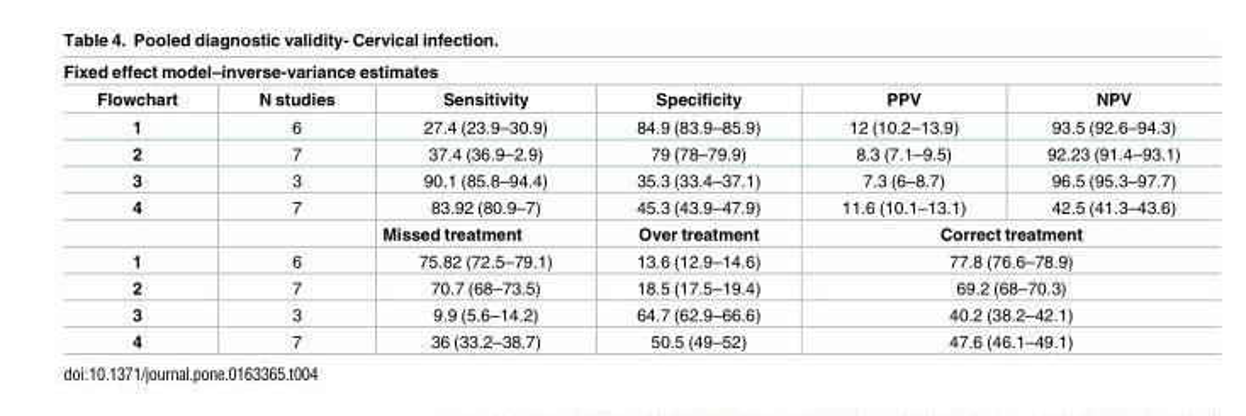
<table><thead><tr><td colspan="6">Fixed effect model–inverse-variance estimates</td></tr><tr><td>Flowchart</td><td>N studies</td><td>Sensitivity</td><td>Specificity</td><td>PPV</td><td>NPV</td></tr></thead><tbody><tr><td>1</td><td>6</td><td>27.4 (23.9–30.9)</td><td>84.9 (83.9–85.9)</td><td>12 (10.2–13.9)</td><td>93.5 (92.6–94.3)</td></tr><tr><td>2</td><td>7</td><td>37.4 (36.9–2.9)</td><td>79 (78–79.9)</td><td>8.3 (7.1–9.5)</td><td>92.23 (91.4–93.1)</td></tr><tr><td>3</td><td>3</td><td>90.1 (85.8–94.4)</td><td>35.3 (33.4–37.1)</td><td>7.3 (6–8.7)</td><td>96.5 (95.3–97.7)</td></tr><tr><td rowspan="2">4</td><td>7</td><td>83.92 (80.9–7)</td><td>45.3 (43.9–47.9)</td><td>11.6 (10.1–13.1)</td><td>42.5 (41.3–43.6)</td></tr><tr><td></td><td>Missed treatment</td><td>Over treatment</td><td colspan="2">Correct treatment</td></tr><tr><td>1</td><td>6</td><td>75.82 (72.5–79.1)</td><td>13.6 (12.9–14.6)</td><td colspan="2">77.8 (76.6–78.9)</td></tr><tr><td>2</td><td>7</td><td>70.7 (68–73.5)</td><td>18.5 (17.5–19.4)</td><td colspan="2">69.2 (68–70.3)</td></tr><tr><td>3</td><td>3</td><td>9.9 (5.6–14.2)</td><td>64.7 (62.9–66.6)</td><td colspan="2">40.2 (38.2–42.1)</td></tr><tr><td>4</td><td>7</td><td>36 (33.2–38.7)</td><td>50.5 (49–52)</td><td colspan="2">47.6 (46.1–49.1)</td></tr></tbody></table>